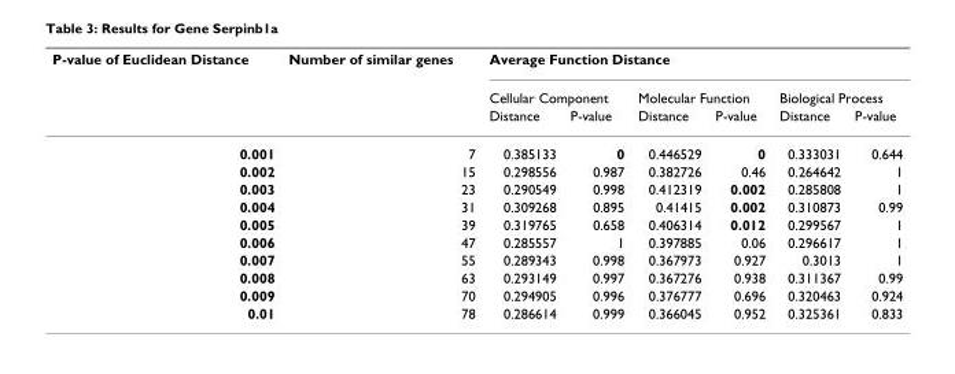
<table><thead><tr><td rowspan="3">P-value of Euclidean Distance</td><td rowspan="3">Number of similar genes</td><td colspan="6">Average Function Distance</td></tr><tr><td colspan="2">Cellular Component</td><td colspan="2">Molecular Function</td><td colspan="2">Biological Process</td></tr><tr><td>Distance</td><td>P-value</td><td>Distance</td><td>P-value</td><td>Distance</td><td>P-value</td></tr></thead><tbody><tr><td>0.001</td><td>7</td><td>0.385133</td><td>0</td><td>0.446529</td><td>0</td><td>0.333031</td><td>0.644</td></tr><tr><td>0.002</td><td>15</td><td>0.298556</td><td>0.987</td><td>0.382726</td><td>0.46</td><td>0.264642</td><td>1</td></tr><tr><td>0.003</td><td>23</td><td>0.290549</td><td>0.998</td><td>0.412319</td><td>0.002</td><td>0.285808</td><td>1</td></tr><tr><td>0.004</td><td>31</td><td>0.309268</td><td>0.895</td><td>0.41415</td><td>0.002</td><td>0.310873</td><td>0.99</td></tr><tr><td>0.005</td><td>39</td><td>0.319765</td><td>0.658</td><td>0.406314</td><td>0.012</td><td>0.299567</td><td>1</td></tr><tr><td>0.006</td><td>47</td><td>0.285557</td><td>1</td><td>0.397885</td><td>0.06</td><td>0.296617</td><td>1</td></tr><tr><td>0.007</td><td>55</td><td>0.289343</td><td>0.998</td><td>0.367973</td><td>0.927</td><td>0.3013</td><td>1</td></tr><tr><td>0.008</td><td>63</td><td>0.293149</td><td>0.997</td><td>0.367276</td><td>0.938</td><td>0.311367</td><td>0.99</td></tr><tr><td>0.009</td><td>70</td><td>0.294905</td><td>0.996</td><td>0.376777</td><td>0.696</td><td>0.320463</td><td>0.924</td></tr><tr><td>0.01</td><td>78</td><td>0.286614</td><td>0.999</td><td>0.366045</td><td>0.952</td><td>0.325361</td><td>0.833</td></tr></tbody></table>